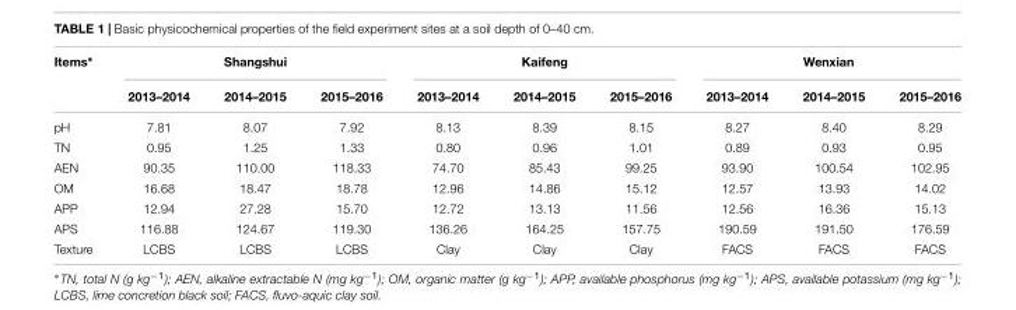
<table><thead><tr><td rowspan="2">Items∗</td><td colspan="3">Shangshui</td><td colspan="3">Kaifeng</td><td colspan="3">Wenxian</td></tr><tr><td>2013–2014</td><td>2014–2015</td><td>2015–2016</td><td>2013–2014</td><td>2014–2015</td><td>2015–2016</td><td>2013–2014</td><td>2014–2015</td><td>2015–2016</td></tr></thead><tbody><tr><td>pH</td><td>7.81</td><td>8.07</td><td>7.92</td><td>8.13</td><td>8.39</td><td>8.15</td><td>8.27</td><td>8.40</td><td>8.29</td></tr><tr><td>TN</td><td>0.95</td><td>1.25</td><td>1.33</td><td>0.80</td><td>0.96</td><td>1.01</td><td>0.89</td><td>0.93</td><td>0.95</td></tr><tr><td>AEN</td><td>90.35</td><td>110.00</td><td>118.33</td><td>74.70</td><td>85.43</td><td>99.25</td><td>93.90</td><td>100.54</td><td>102.95</td></tr><tr><td>OM</td><td>16.68</td><td>18.47</td><td>18.78</td><td>12.96</td><td>14.86</td><td>15.12</td><td>12.57</td><td>13.93</td><td>14.02</td></tr><tr><td>APP</td><td>12.94</td><td>27.28</td><td>15.70</td><td>12.72</td><td>13.13</td><td>11.56</td><td>12.56</td><td>16.36</td><td>15.13</td></tr><tr><td>APS</td><td>116.88</td><td>124.67</td><td>119.30</td><td>136.26</td><td>164.25</td><td>157.75</td><td>190.59</td><td>191.50</td><td>176.59</td></tr><tr><td>Texture</td><td>LCBS</td><td>LCBS</td><td>LCBS</td><td>Clay</td><td>Clay</td><td>Clay</td><td>FACS</td><td>FACS</td><td>FACS</td></tr></tbody></table>